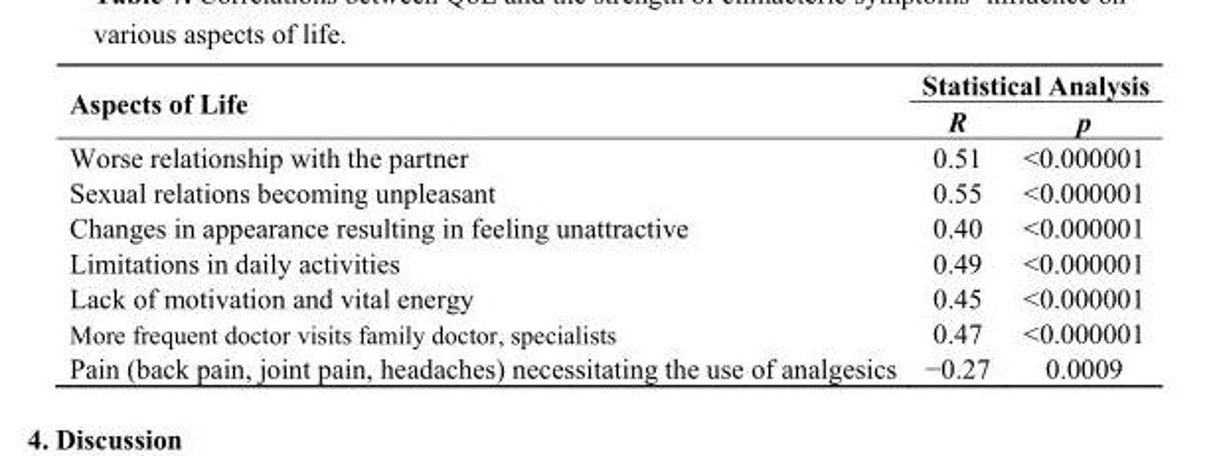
<table><thead><tr><td rowspan="2">Aspects of Life</td><td colspan="2">Statistical Analysis</td></tr><tr><td>R</td><td>p</td></tr></thead><tbody><tr><td>Worse relationship with the partner</td><td>0.51</td><td>&lt;0.000001</td></tr><tr><td>Sexual relations becoming unpleasant</td><td>0.55</td><td>&lt;0.000001</td></tr><tr><td>Changes in appearance resulting in feeling unattractive</td><td>0.40</td><td>&lt;0.000001</td></tr><tr><td>Limitations in daily activities</td><td>0.49</td><td>&lt;0.000001</td></tr><tr><td>Lack of motivation and vital energy</td><td>0.45</td><td>&lt;0.000001</td></tr><tr><td>More frequent doctor visits family doctor, specialists</td><td>0.47</td><td>&lt;0.000001</td></tr><tr><td>Pain (back pain, joint pain, headaches) necessitating the use of analgesics</td><td>−0.27</td><td>0.0009</td></tr></tbody></table>